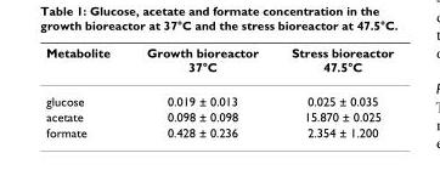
<table><thead><tr><td>Metabolite</td><td>Growth bioreactor 37°C</td><td>Stress bioreactor 47.5°C</td></tr></thead><tbody><tr><td>glucose</td><td>0.019 ± 0.013</td><td>0.025 ± 0.035</td></tr><tr><td>acetate</td><td>0.098 ± 0.098</td><td>15.870 ± 0.025</td></tr><tr><td>formate</td><td>0.428 ± 0.236</td><td>2.354 ± 1.200</td></tr></tbody></table>